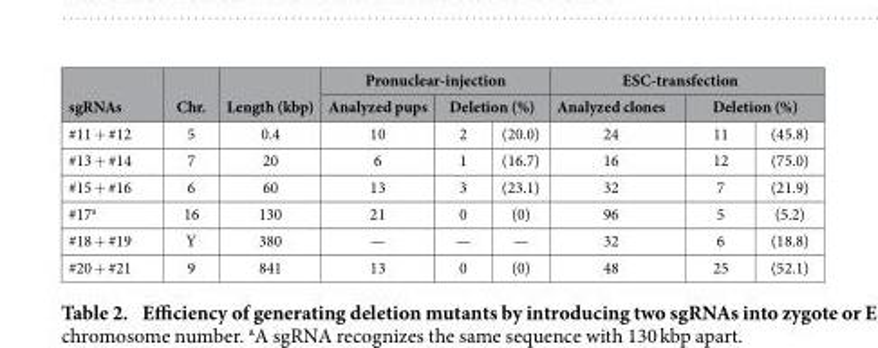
<table><thead><tr><td rowspan="3">sgRNAs #11 + #12</td><td rowspan="3">Chr. 5</td><td rowspan="3">Length (kbp) 0.4</td><td colspan="3">Pronuclear-injection</td><td colspan="3">ESC-transfection</td></tr><tr><td rowspan="2">Analyzed pups 10</td><td colspan="2">Deletion (%)</td><td rowspan="2">Analyzed clones 24</td><td colspan="2">Deletion (%)</td></tr><tr><td>2</td><td>(20.0)</td><td>11</td><td>(45.8)</td></tr></thead><tbody><tr><td>#13 + #14</td><td>7</td><td>20</td><td>6</td><td>1</td><td>(16.7)</td><td>16</td><td>12</td><td>(75.0)</td></tr><tr><td>#15 + #16</td><td>6</td><td>60</td><td>13</td><td>3</td><td>(23.1)</td><td>32</td><td>7</td><td>(21.9)</td></tr><tr><td>#17<sup>a</sup></td><td>16</td><td>130</td><td>21</td><td>0</td><td>(0)</td><td>96</td><td>5</td><td>(5.2)</td></tr><tr><td>#18 + #19</td><td>Y</td><td>380</td><td>—</td><td>—</td><td>—</td><td>32</td><td>6</td><td>(18.8)</td></tr><tr><td>#20 + #21</td><td>9</td><td>841</td><td>13</td><td>0</td><td>(0)</td><td>48</td><td>25</td><td>(52.1)</td></tr></tbody></table>